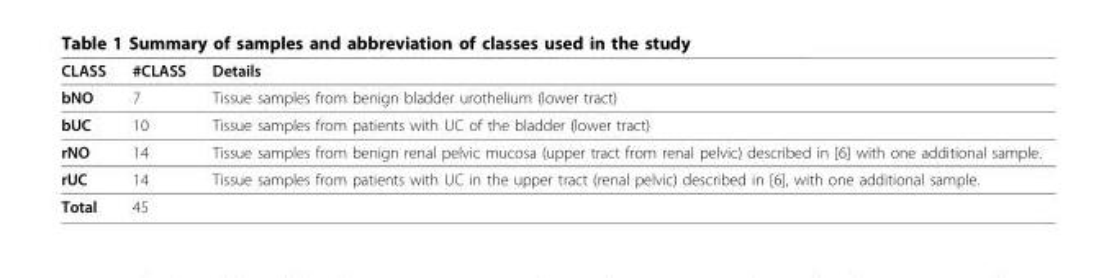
<table><thead><tr><td>CLASS</td><td>#CLASS</td><td>Details</td></tr></thead><tbody><tr><td>bNO</td><td>7</td><td>Tissue samples from benign bladder urothelium (lower tract)</td></tr><tr><td>bUC</td><td>10</td><td>Tissue samples from patients with UC of the bladder (lower tract)</td></tr><tr><td>rNO</td><td>14</td><td>Tissue samples from benign renal pelvic mucosa (upper tract from renal pelvic) described in [6] with one additional sample.</td></tr><tr><td>rUC</td><td>14</td><td>Tissue samples from patients with UC in the upper tract (renal pelvic) described in [6], with one additional sample.</td></tr><tr><td>Total</td><td>45</td><td></td></tr></tbody></table>